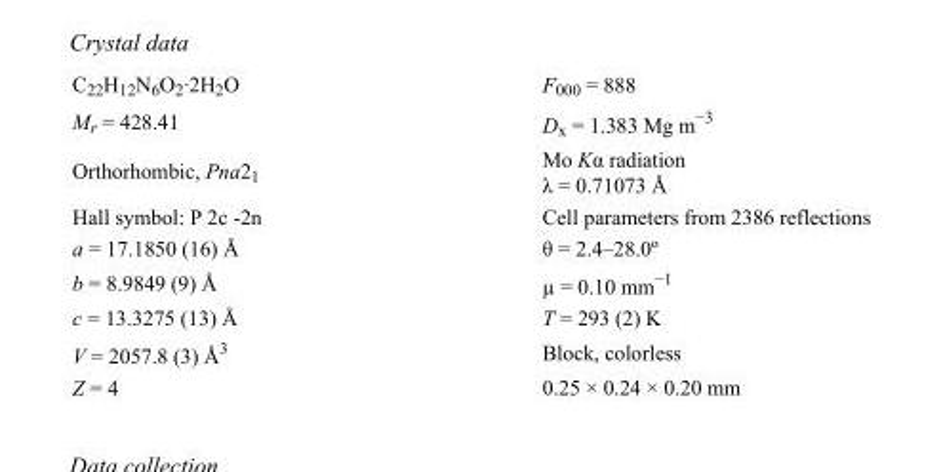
<table><tbody><tr><td>C<sub>22</sub>H<sub>12</sub>N<sub>6</sub>O<sub>2</sub>·2H<sub>2</sub>O</td><td>F<sub>000</sub> = 888</td></tr><tr><td>M<sub>r</sub> = 428.41</td><td>D<sub>x</sub> = 1.383 Mg m<sup>−3</sup></td></tr><tr><td>Orthorhombic, Pna2<sub>1</sub></td><td>Mo Kα radiation λ = 0.71073 Å</td></tr><tr><td>Hall symbol: P 2c -2n</td><td>Cell parameters from 2386 reflections</td></tr><tr><td>a = 17.1850 (16) Å</td><td>θ = 2.4–28.0º</td></tr><tr><td>b = 8.9849 (9) Å</td><td>µ = 0.10 mm<sup>−1</sup></td></tr><tr><td>c = 13.3275 (13) Å</td><td>T = 293 (2) K</td></tr><tr><td>V = 2057.8 (3) Å<sup>3</sup></td><td>Block, colorless</td></tr><tr><td>Z = 4</td><td>0.25 × 0.24 × 0.20 mm</td></tr></tbody></table>